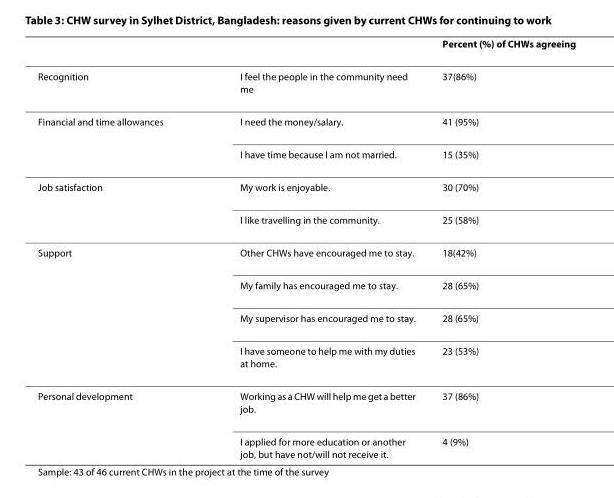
<table><thead><tr><td></td><td></td><td>Percent (%) of CHWs agreeing</td></tr></thead><tbody><tr><td>Recognition</td><td>I feel the people in the community need me</td><td>37(86%)</td></tr><tr><td rowspan="2">Financial and time allowances</td><td>I need the money/salary.</td><td>41 (95%)</td></tr><tr><td>I have time because I am not married.</td><td>15 (35%)</td></tr><tr><td rowspan="2">Job satisfaction</td><td>My work is enjoyable.</td><td>30 (70%)</td></tr><tr><td>I like travelling in the community.</td><td>25 (58%)</td></tr><tr><td rowspan="4">Support</td><td>Other CHWs have encouraged me to stay.</td><td>18(42%)</td></tr><tr><td>My family has encouraged me to stay.</td><td>28 (65%)</td></tr><tr><td>My supervisor has encouraged me to stay.</td><td>28 (65%)</td></tr><tr><td>I have someone to help me with my duties at home.</td><td>23 (53%)</td></tr><tr><td rowspan="2">Personal development</td><td>Working as a CHW will help me get a better job.</td><td>37 (86%)</td></tr><tr><td>I applied for more education or another job, but have not/will not receive it.</td><td>4 (9%)</td></tr></tbody></table>